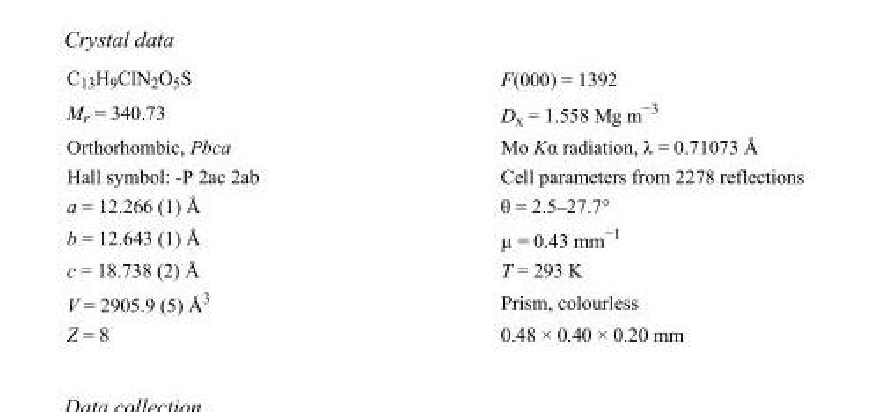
<table><tbody><tr><td>C<sub>13</sub>H<sub>9</sub>ClN<sub>2</sub>O<sub>5</sub>S</td><td>F(000) = 1392</td></tr><tr><td>M<sub>r</sub> = 340.73</td><td>D<sub>x</sub> = 1.558 Mg m<sup>−3</sup></td></tr><tr><td>Orthorhombic, Pbca</td><td>Mo Kα radiation, λ = 0.71073 Å</td></tr><tr><td>Hall symbol: -P 2ac 2ab</td><td>Cell parameters from 2278 reflections</td></tr><tr><td>a = 12.266 (1) Å</td><td>θ = 2.5–27.7°</td></tr><tr><td>b = 12.643 (1) Å</td><td>µ = 0.43 mm<sup>−1</sup></td></tr><tr><td>c = 18.738 (2) Å</td><td>T = 293 K</td></tr><tr><td>V = 2905.9 (5) Å<sup>3</sup></td><td>Prism, colourless</td></tr><tr><td>Z = 8</td><td>0.48 × 0.40 × 0.20 mm</td></tr></tbody></table>